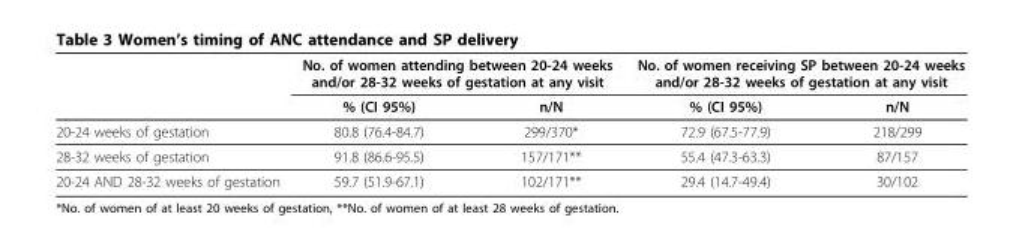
<table><thead><tr><td rowspan="2"></td><td colspan="2">No. of women attending between 20-24 weeks and/or 28-32 weeks of gestation at any visit</td><td colspan="2">No. of women receiving SP between 20-24 weeks and/or 28-32 weeks of gestation at any visit</td></tr><tr><td>% (CI 95%)</td><td>n/N</td><td>% (CI 95%)</td><td>n/N</td></tr></thead><tbody><tr><td>20-24 weeks of gestation</td><td>80.8 (76.4-84.7)</td><td>299/370*</td><td>72.9 (67.5-77.9)</td><td>218/299</td></tr><tr><td>28-32 weeks of gestation</td><td>91.8 (86.6-95.5)</td><td>157/171**</td><td>55.4 (47.3-63.3)</td><td>87/157</td></tr><tr><td>20-24 AND 28-32 weeks of gestation</td><td>59.7 (51.9-67.1)</td><td>102/171**</td><td>29.4 (14.7-49.4)</td><td>30/102</td></tr></tbody></table>